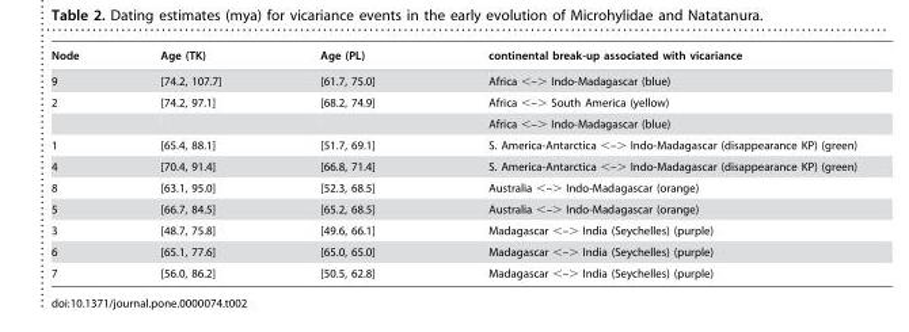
<table><thead><tr><td>Node</td><td>Age (TK)</td><td>Age (PL)</td><td>continental break-up associated with vicariance</td></tr></thead><tbody><tr><td>9</td><td>[74.2, 107.7]</td><td>[61.7, 75.0]</td><td>Africa &lt;–&gt; Indo-Madagascar (blue)</td></tr><tr><td rowspan="2">2</td><td>[74.2, 97.1]</td><td>[68.2, 74.9]</td><td>Africa &lt;–&gt; South America (yellow)</td></tr><tr><td></td><td></td><td>Africa &lt;–&gt; Indo-Madagascar (blue)</td></tr><tr><td>1</td><td>[65.4, 88.1]</td><td>[51.7, 69.1]</td><td>S. America-Antarctica &lt;–&gt; Indo-Madagascar (disappearance KP) (green)</td></tr><tr><td>4</td><td>[70.4, 91.4]</td><td>[66.8, 71.4]</td><td>S. America-Antarctica &lt;–&gt; Indo-Madagascar (disappearance KP) (green)</td></tr><tr><td>8</td><td>[63.1, 95.0]</td><td>[52.3, 68.5]</td><td>Australia &lt;–&gt; Indo-Madagascar (orange)</td></tr><tr><td>5</td><td>[66.7, 84.5]</td><td>[65.2, 68.5]</td><td>Australia &lt;–&gt; Indo-Madagascar (orange)</td></tr><tr><td>3</td><td>[48.7, 75.8]</td><td>[49.6, 66.1]</td><td>Madagascar &lt;–&gt; India (Seychelles) (purple)</td></tr><tr><td>6</td><td>[65.1, 77.6]</td><td>[65.0, 65.0]</td><td>Madagascar &lt;–&gt; India (Seychelles) (purple)</td></tr><tr><td>7</td><td>[56.0, 86.2]</td><td>[50.5, 62.8]</td><td>Madagascar &lt;–&gt; India (Seychelles) (purple)</td></tr></tbody></table>